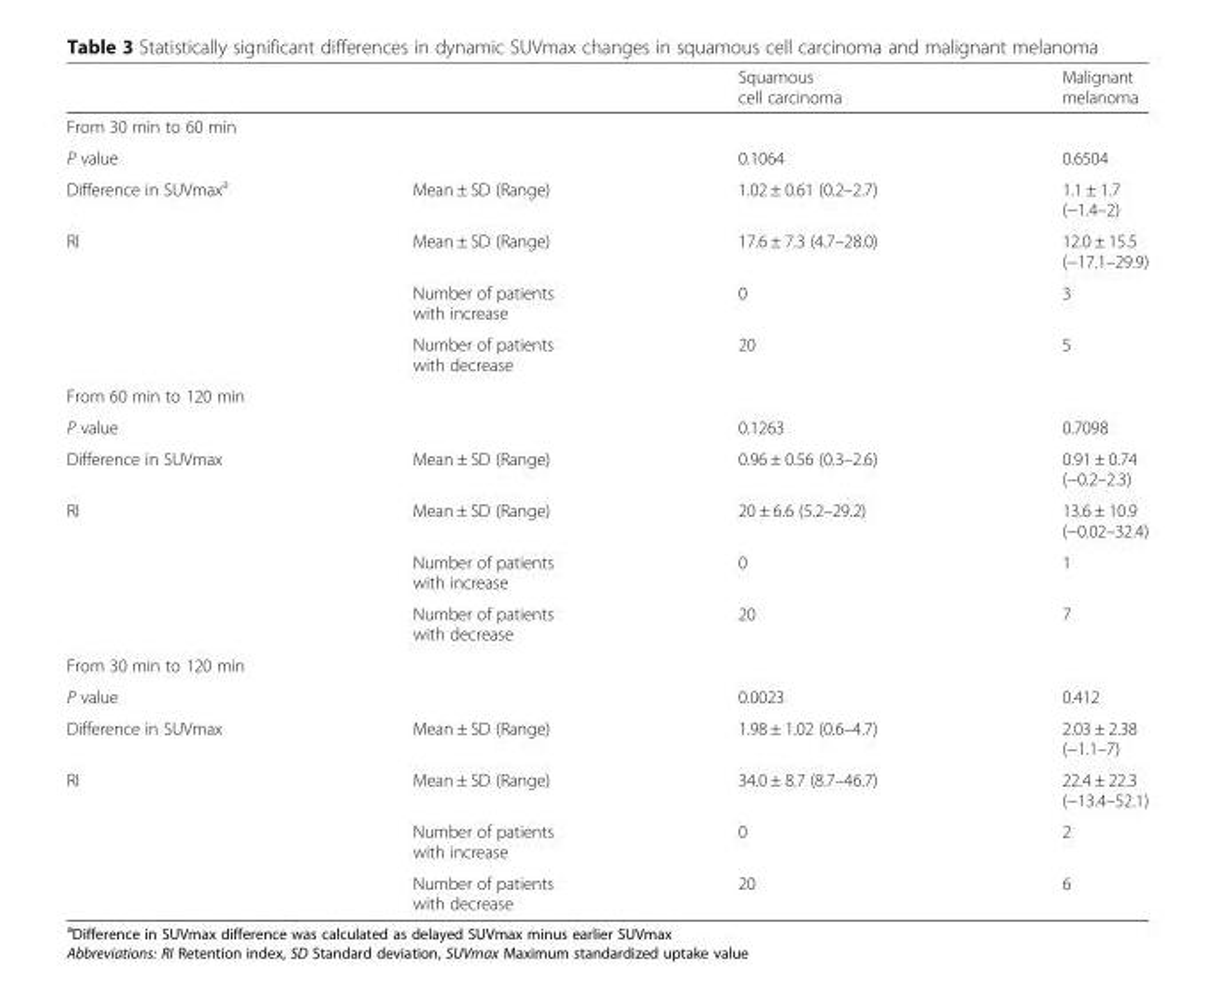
<table><thead><tr><td></td><td></td><td>Squamous cell carcinoma</td><td>Malignant melanoma</td></tr></thead><tbody><tr><td colspan="4">From 30 min to 60 min</td></tr><tr><td>P value</td><td></td><td>0.1064</td><td>0.6504</td></tr><tr><td>Difference in SUVmax<sup>a</sup></td><td>Mean ± SD (Range)</td><td>1.02 ± 0.61 (0.2–2.7)</td><td>1.1 ± 1.7 (−1.4–2)</td></tr><tr><td rowspan="3">RI</td><td>Mean ± SD (Range)</td><td>17.6 ± 7.3 (4.7–28.0)</td><td>12.0 ± 15.5 (−17.1–29.9)</td></tr><tr><td>Number of patients with increase</td><td>0</td><td>3</td></tr><tr><td>Number of patients with decrease</td><td>20</td><td>5</td></tr><tr><td colspan="4">From 60 min to 120 min</td></tr><tr><td>P value</td><td></td><td>0.1263</td><td>0.7098</td></tr><tr><td>Difference in SUVmax</td><td>Mean ± SD (Range)</td><td>0.96 ± 0.56 (0.3–2.6)</td><td>0.91 ± 0.74 (−0.2–2.3)</td></tr><tr><td rowspan="3">RI</td><td>Mean ± SD (Range)</td><td>20 ± 6.6 (5.2–29.2)</td><td>13.6 ± 10.9 (−0.02–32.4)</td></tr><tr><td>Number of patients with increase</td><td>0</td><td>1</td></tr><tr><td>Number of patients with decrease</td><td>20</td><td>7</td></tr><tr><td colspan="4">From 30 min to 120 min</td></tr><tr><td>P value</td><td></td><td>0.0023</td><td>0.412</td></tr><tr><td>Difference in SUVmax</td><td>Mean ± SD (Range)</td><td>1.98 ± 1.02 (0.6–4.7)</td><td>2.03 ± 2.38 (−1.1–7)</td></tr><tr><td rowspan="3">RI</td><td>Mean ± SD (Range)</td><td>34.0 ± 8.7 (8.7–46.7)</td><td>22.4 ± 22.3 (−13.4–52.1)</td></tr><tr><td>Number of patients with increase</td><td>0</td><td>2</td></tr><tr><td>Number of patients with decrease</td><td>20</td><td>6</td></tr></tbody></table>